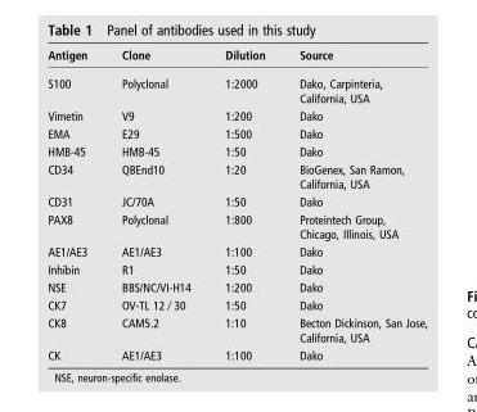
<table><thead><tr><td>Antigen</td><td>Clone</td><td>Dilution</td><td>Source</td></tr></thead><tbody><tr><td>S100</td><td>Polyclonal</td><td>1:2000</td><td>Dako, Carpinteria, California, USA</td></tr><tr><td>Vimetin</td><td>V9</td><td>1:200</td><td>Dako</td></tr><tr><td>EMA</td><td>E29</td><td>1:500</td><td>Dako</td></tr><tr><td>HMB-45</td><td>HMB-45</td><td>1:50</td><td>Dako</td></tr><tr><td>CD34</td><td>QBEnd10</td><td>1:20</td><td>BioGenex, San Ramon, California, USA</td></tr><tr><td>CD31</td><td>JC/70A</td><td>1:50</td><td>Dako</td></tr><tr><td>PAX8</td><td>Polyclonal</td><td>1:800</td><td>Proteintech Group, Chicago, Illinois, USA</td></tr><tr><td>AE1/AE3</td><td>AE1/AE3</td><td>1:100</td><td>Dako</td></tr><tr><td>Inhibin</td><td>R1</td><td>1:50</td><td>Dako</td></tr><tr><td>NSE</td><td>BBS/NC/VI-H14</td><td>1:200</td><td>Dako</td></tr><tr><td>CK7</td><td>OV-TL 12 ⁄ 30</td><td>1:50</td><td>Dako</td></tr><tr><td>CK8</td><td>CAM5.2</td><td>1:10</td><td>Becton Dickinson, San Jose, California, USA</td></tr><tr><td>CK</td><td>AE1/AE3</td><td>1:100</td><td>Dako</td></tr></tbody></table>